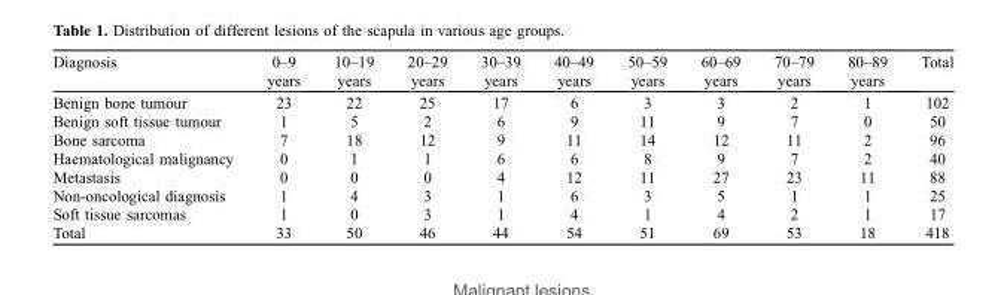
<table><thead><tr><td>Diagnosis</td><td>0–9 years</td><td>10–19 years</td><td>20–29 years</td><td>30–39 years</td><td>40–49 years</td><td>50–59 years</td><td>60–69 years</td><td>70–79 years</td><td>80–89 years</td><td>Total</td></tr></thead><tbody><tr><td>Benign bone tumour</td><td>23</td><td>22</td><td>25</td><td>17</td><td>6</td><td>3</td><td>3</td><td>2</td><td>1</td><td>102</td></tr><tr><td>Benign soft tissue tumour</td><td>1</td><td>5</td><td>2</td><td>6</td><td>9</td><td>11</td><td>9</td><td>7</td><td>0</td><td>50</td></tr><tr><td>Bone sarcoma</td><td>7</td><td>18</td><td>12</td><td>9</td><td>11</td><td>14</td><td>12</td><td>11</td><td>2</td><td>96</td></tr><tr><td>Haematological malignancy</td><td>0</td><td>1</td><td>1</td><td>6</td><td>6</td><td>8</td><td>9</td><td>7</td><td>2</td><td>40</td></tr><tr><td>Metastasis</td><td>0</td><td>0</td><td>0</td><td>4</td><td>12</td><td>11</td><td>27</td><td>23</td><td>11</td><td>88</td></tr><tr><td>Non-oncological diagnosis</td><td>1</td><td>4</td><td>3</td><td>1</td><td>6</td><td>3</td><td>5</td><td>1</td><td>1</td><td>25</td></tr><tr><td>Soft tissue sarcomas</td><td>1</td><td>0</td><td>3</td><td>1</td><td>4</td><td>1</td><td>4</td><td>2</td><td>1</td><td>17</td></tr><tr><td>Total</td><td>33</td><td>50</td><td>46</td><td>44</td><td>54</td><td>51</td><td>69</td><td>53</td><td>18</td><td>418</td></tr></tbody></table>